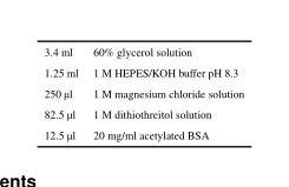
<table><tbody><tr><td>3.4 ml</td><td>60% glycerol solution</td></tr><tr><td>1.25 ml</td><td>1 M HEPES/KOH buffer pH 8.3</td></tr><tr><td>250 μl</td><td>1 M magnesium chloride solution</td></tr><tr><td>82.5 μl</td><td>1 M dithiothreitol solution</td></tr><tr><td>12.5 μl</td><td>20 mg/ml acetylated BSA</td></tr></tbody></table>